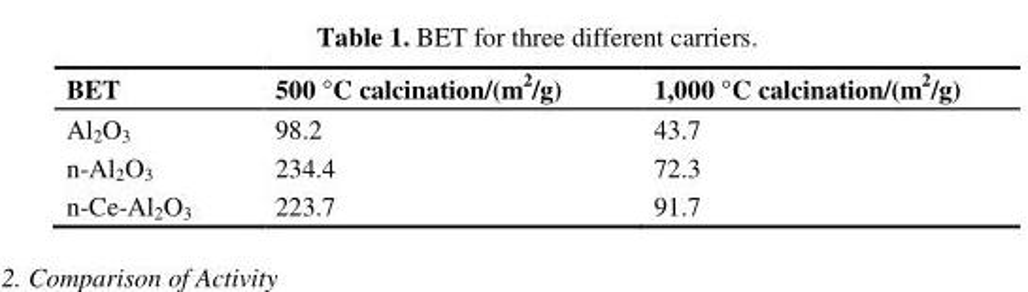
<table><thead><tr><td>BET</td><td>500 °C calcination/(m<sup>2</sup>/g)</td><td>1,000 °C calcination/(m<sup>2</sup>/g)</td></tr></thead><tbody><tr><td>Al<sub>2</sub>O<sub>3</sub></td><td>98.2</td><td>43.7</td></tr><tr><td>n-Al<sub>2</sub>O<sub>3</sub></td><td>234.4</td><td>72.3</td></tr><tr><td>n-Ce-Al<sub>2</sub>O<sub>3</sub></td><td>223.7</td><td>91.7</td></tr></tbody></table>